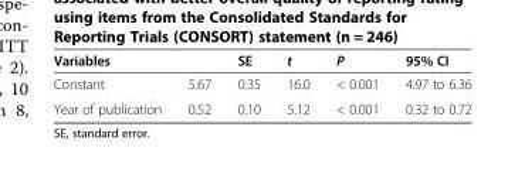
<table><thead><tr><td colspan="2">Variables</td><td rowspan="2">SE 0.35</td><td rowspan="2">t 16.0</td><td rowspan="2">P &lt; 0.001</td><td rowspan="2">95% CI 4.97 to 6.36</td></tr><tr><td>Constant</td><td>5.67</td></tr></thead><tbody><tr><td>Year of publication</td><td>0.52</td><td>0.10</td><td>5.12</td><td>&lt; 0.001</td><td>0.32 to 0.72</td></tr></tbody></table>